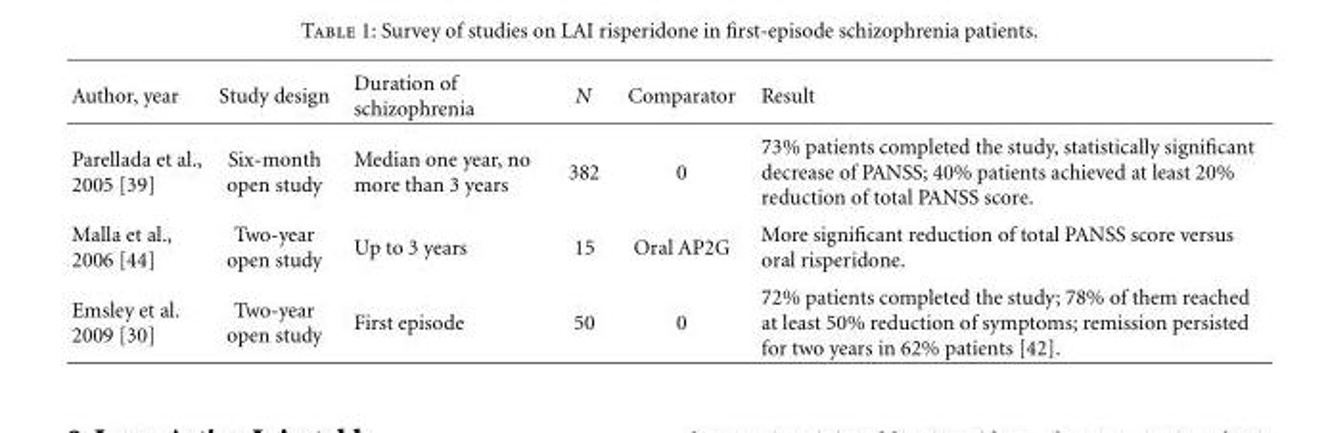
<table><thead><tr><td>Author, year</td><td>Study design</td><td>Duration of schizophrenia</td><td>N</td><td>Comparator</td><td>Result</td></tr></thead><tbody><tr><td>Parellada et al., 2005 [39]</td><td>Six-month open study</td><td>Median one year, no more than 3 years</td><td>382</td><td>0</td><td>73% patients completed the study, statistically significant decrease of PANSS; 40% patients achieved at least 20% reduction of total PANSS score.</td></tr><tr><td>Malla et al., 2006 [44]</td><td>Two-year open study</td><td>Up to 3 years</td><td>15</td><td>Oral AP2G</td><td>More significant reduction of total PANSS score versus oral risperidone.</td></tr><tr><td>Emsley et al. 2009 [30]</td><td>Two-year open study</td><td>First episode</td><td>50</td><td>0</td><td>72% patients completed the study; 78% of them reached at least 50% reduction of symptoms; remission persisted for two years in 62% patients [42].</td></tr></tbody></table>